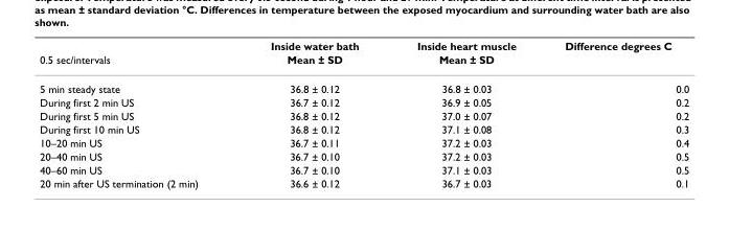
<table><thead><tr><td rowspan="2">0.5 sec/intervals</td><td rowspan="2">Inside water bath Mean ± SD</td><td rowspan="2">Inside heart muscle Mean ± SD</td><td rowspan="2">Difference degrees C</td></tr><tr></tr></thead><tbody><tr><td>5 min steady state</td><td>36.8 ± 0.12</td><td>36.8 ± 0.03</td><td>0.0</td></tr><tr><td>During first 2 min US</td><td>36.7 ± 0.12</td><td>36.9 ± 0.05</td><td>0.2</td></tr><tr><td>During first 5 min US</td><td>36.8 ± 0.12</td><td>37.0 ± 0.07</td><td>0.2</td></tr><tr><td>During first 10 min US</td><td>36.8 ± 0.12</td><td>37.1 ± 0.08</td><td>0.3</td></tr><tr><td>10–20 min US</td><td>36.7 ± 0.11</td><td>37.2 ± 0.03</td><td>0.4</td></tr><tr><td>20–40 min US</td><td>36.7 ± 0.10</td><td>37.2 ± 0.03</td><td>0.5</td></tr><tr><td>40–60 min US</td><td>36.7 ± 0.10</td><td>37.1 ± 0.03</td><td>0.5</td></tr><tr><td>20 min after US termination (2 min)</td><td>36.6 ± 0.12</td><td>36.7 ± 0.03</td><td>0.1</td></tr></tbody></table>